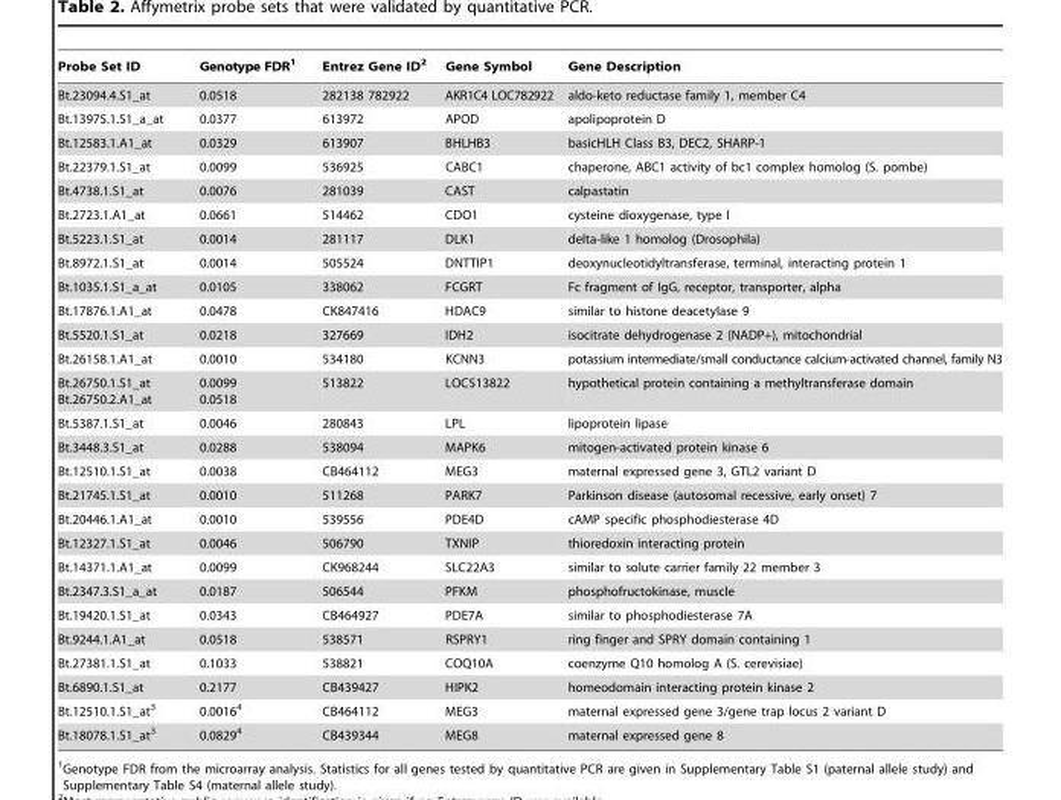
<table><thead><tr><td>Probe Set ID</td><td>Genotype FDR<sup>1</sup></td><td>Entrez Gene ID<sup>2</sup></td><td>Gene Symbol</td><td>Gene Description</td></tr></thead><tbody><tr><td>Bt.23094.4.S1_at</td><td>0.0518</td><td>282138 782922</td><td>AKR1C4 LOC782922</td><td>aldo-keto reductase family 1, member C4</td></tr><tr><td>Bt.13975.1.S1_a_at</td><td>0.0377</td><td>613972</td><td>APOD</td><td>apolipoprotein D</td></tr><tr><td>Bt.12583.1.A1_at</td><td>0.0329</td><td>613907</td><td>BHLHB3</td><td>basicHLH Class B3, DEC2, SHARP-1</td></tr><tr><td>Bt.22379.1.S1_at</td><td>0.0099</td><td>536925</td><td>CABC1</td><td>chaperone, ABC1 activity of bc1 complex homolog (S. pombe)</td></tr><tr><td>Bt.4738.1.S1_at</td><td>0.0076</td><td>281039</td><td>CAST</td><td>calpastatin</td></tr><tr><td>Bt.2723.1.A1_at</td><td>0.0661</td><td>514462</td><td>CDO1</td><td>cysteine dioxygenase, type I</td></tr><tr><td>Bt.5223.1.S1_at</td><td>0.0014</td><td>281117</td><td>DLK1</td><td>delta-like 1 homolog (Drosophila)</td></tr><tr><td>Bt.8972.1.S1_at</td><td>0.0014</td><td>505524</td><td>DNTTIP1</td><td>deoxynucleotidyltransferase, terminal, interacting protein 1</td></tr><tr><td>Bt.1035.1.S1_a_at</td><td>0.0105</td><td>338062</td><td>FCGRT</td><td>Fc fragment of IgG, receptor, transporter, alpha</td></tr><tr><td>Bt.17876.1.A1_at</td><td>0.0478</td><td>CK847416</td><td>HDAC9</td><td>similar to histone deacetylase 9</td></tr><tr><td>Bt.5520.1.S1_at</td><td>0.0218</td><td>327669</td><td>IDH2</td><td>isocitrate dehydrogenase 2 (NADP+), mitochondrial</td></tr><tr><td>Bt.26158.1.A1_at</td><td>0.0010</td><td>534180</td><td>KCNN3</td><td>potassium intermediate/small conductance calcium-activated channel, family N3</td></tr><tr><td>Bt.26750.1.S1_at Bt.26750.2.A1_at</td><td>0.0099 0.0518</td><td>513822</td><td>LOC513822</td><td>hypothetical protein containing a methyltransferase domain</td></tr><tr><td>Bt.5387.1.S1_at</td><td>0.0046</td><td>280843</td><td>LPL</td><td>lipoprotein lipase</td></tr><tr><td>Bt.3448.3.S1_at</td><td>0.0288</td><td>538094</td><td>MAPK6</td><td>mitogen-activated protein kinase 6</td></tr><tr><td>Bt.12510.1.S1_at</td><td>0.0038</td><td>CB464112</td><td>MEG3</td><td>maternal expressed gene 3, GTL2 variant D</td></tr><tr><td>Bt.21745.1.S1_at</td><td>0.0010</td><td>511268</td><td>PARK7</td><td>Parkinson disease (autosomal recessive, early onset) 7</td></tr><tr><td>Bt.20446.1.A1_at</td><td>0.0010</td><td>539556</td><td>PDE4D</td><td>cAMP specific phosphodiesterase 4D</td></tr><tr><td>Bt.12327.1.S1_at</td><td>0.0046</td><td>506790</td><td>TXNIP</td><td>thioredoxin interacting protein</td></tr><tr><td>Bt.14371.1.A1_at</td><td>0.0099</td><td>CK968244</td><td>SLC22A3</td><td>similar to solute carrier family 22 member 3</td></tr><tr><td>Bt.2347.3.S1_a_at</td><td>0.0187</td><td>506544</td><td>PFKM</td><td>phosphofructokinase, muscle</td></tr><tr><td>Bt.19420.1.S1_at</td><td>0.0343</td><td>CB464927</td><td>PDE7A</td><td>similar to phosphodiesterase 7A</td></tr><tr><td>Bt.9244.1.A1_at</td><td>0.0518</td><td>538571</td><td>RSPRY1</td><td>ring finger and SPRY domain containing 1</td></tr><tr><td>Bt.27381.1.S1_at</td><td>0.1033</td><td>538821</td><td>COQ10A</td><td>coenzyme Q10 homolog A (S. cerevisiae)</td></tr><tr><td>Bt.6890.1.S1_at</td><td>0.2177</td><td>CB439427</td><td>HIPK2</td><td>homeodomain interacting protein kinase 2</td></tr><tr><td>Bt.12510.1.S1_at<sup>3</sup></td><td>0.0016<sup>4</sup></td><td>CB464112</td><td>MEG3</td><td>maternal expressed gene 3/gene trap locus 2 variant D</td></tr><tr><td>Bt.18078.1.S1_at<sup>3</sup></td><td>0.0829<sup>4</sup></td><td>CB439344</td><td>MEG8</td><td>maternal expressed gene 8</td></tr></tbody></table>